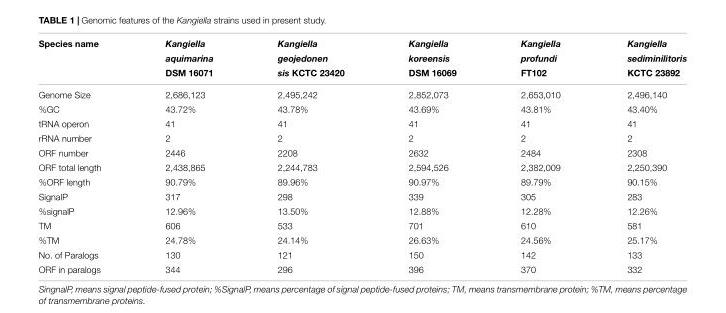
<table><thead><tr><td rowspan="3">Species name</td><td rowspan="3">Kangiella aquimarina DSM 16071</td><td rowspan="3">Kangiella geojedonen sis KCTC 23420</td><td rowspan="3">Kangiella koreensis DSM 16069</td><td rowspan="3">Kangiella profundi FT102</td><td rowspan="3">Kangiella sediminilitoris KCTC 23892</td></tr><tr></tr><tr></tr></thead><tbody><tr><td>Genome Size</td><td>2,686,123</td><td>2,495,242</td><td>2,852,073</td><td>2,653,010</td><td>2,496,140</td></tr><tr><td>%GC</td><td>43.72%</td><td>43.78%</td><td>43.69%</td><td>43.81%</td><td>43.40%</td></tr><tr><td>tRNA operon</td><td>41</td><td>41</td><td>41</td><td>41</td><td>41</td></tr><tr><td>rRNA number</td><td>2</td><td>2</td><td>2</td><td>2</td><td>2</td></tr><tr><td>ORF number</td><td>2446</td><td>2208</td><td>2632</td><td>2484</td><td>2308</td></tr><tr><td>ORF total length</td><td>2,438,865</td><td>2,244,783</td><td>2,594,526</td><td>2,382,009</td><td>2,250,390</td></tr><tr><td>%ORF length</td><td>90.79%</td><td>89.96%</td><td>90.97%</td><td>89.79%</td><td>90.15%</td></tr><tr><td>SignalP</td><td>317</td><td>298</td><td>339</td><td>305</td><td>283</td></tr><tr><td>%signalP</td><td>12.96%</td><td>13.50%</td><td>12.88%</td><td>12.28%</td><td>12.26%</td></tr><tr><td>TM</td><td>606</td><td>533</td><td>701</td><td>610</td><td>581</td></tr><tr><td>%TM</td><td>24.78%</td><td>24.14%</td><td>26.63%</td><td>24.56%</td><td>25.17%</td></tr><tr><td>No. of Paralogs</td><td>130</td><td>121</td><td>150</td><td>142</td><td>133</td></tr><tr><td>ORF in paralogs</td><td>344</td><td>296</td><td>396</td><td>370</td><td>332</td></tr></tbody></table>